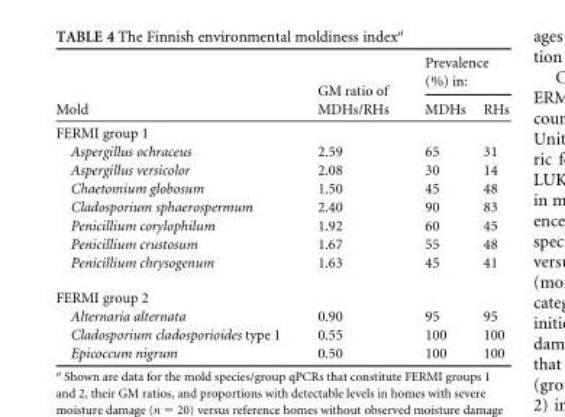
<table><thead><tr><td rowspan="2">Mold</td><td rowspan="2">GM ratio of MDHs/RHs</td><td colspan="2">Prevalence (%) in:</td></tr><tr><td>MDHs</td><td>RHs</td></tr></thead><tbody><tr><td colspan="4">FERMI group 1</td></tr><tr><td>Aspergillus ochraceus</td><td>2.59</td><td>65</td><td>31</td></tr><tr><td>Aspergillus versicolor</td><td>2.08</td><td>30</td><td>14</td></tr><tr><td>Chaetomium globosum</td><td>1.50</td><td>45</td><td>48</td></tr><tr><td>Cladosporium sphaerospermum</td><td>2.40</td><td>90</td><td>83</td></tr><tr><td>Penicillium corylophilum</td><td>1.92</td><td>60</td><td>45</td></tr><tr><td>Penicillium crustosum</td><td>1.67</td><td>55</td><td>48</td></tr><tr><td>Penicillium chrysogenum</td><td>1.63</td><td>45</td><td>41</td></tr><tr><td colspan="4">FERMI group 2</td></tr><tr><td>Alternaria alternata</td><td>0.90</td><td>95</td><td>95</td></tr><tr><td>Cladosporium cladosporioides type 1</td><td>0.55</td><td>100</td><td>100</td></tr><tr><td>Epicoccum nigrum</td><td>0.50</td><td>100</td><td>100</td></tr></tbody></table>